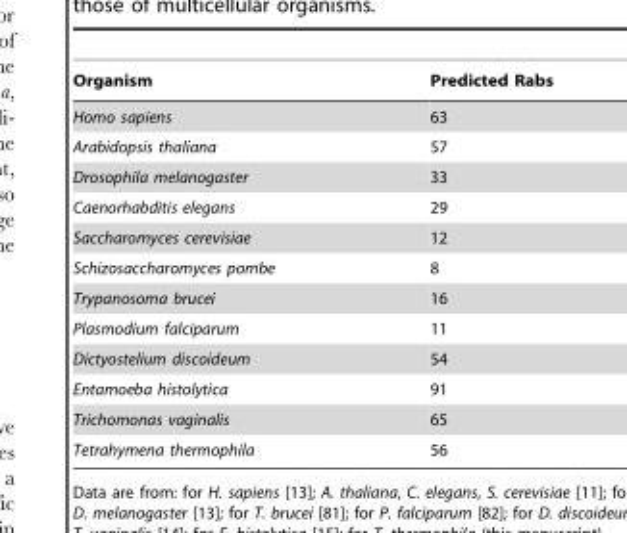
<table><thead><tr><td>Organism</td><td>Predicted Rabs</td></tr></thead><tbody><tr><td>Homo sapiens</td><td>63</td></tr><tr><td>Arabidopsis thaliana</td><td>57</td></tr><tr><td>Drosophila melanogaster</td><td>33</td></tr><tr><td>Caenorhabditis elegans</td><td>29</td></tr><tr><td>Saccharomyces cerevisiae</td><td>12</td></tr><tr><td>Schizosaccharomyces pombe</td><td>8</td></tr><tr><td>Trypanosoma brucei</td><td>16</td></tr><tr><td>Plasmodium falciparum</td><td>11</td></tr><tr><td>Dictyostelium discoideum</td><td>54</td></tr><tr><td>Entamoeba histolytica</td><td>91</td></tr><tr><td>Trichomonas vaginalis</td><td>65</td></tr><tr><td>Tetrahymena thermophila</td><td>56</td></tr></tbody></table>